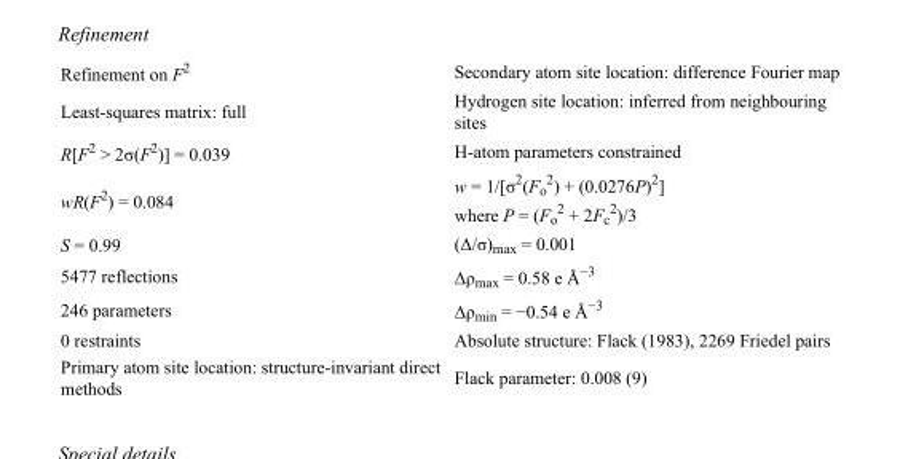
<table><tbody><tr><td>Refinement on F<sup>2</sup></td><td>Secondary atom site location: difference Fourier map</td></tr><tr><td>Least-squares matrix: full</td><td>Hydrogen site location: inferred from neighbouring sites</td></tr><tr><td>R[F<sup>2</sup> &gt; 2σ(F<sup>2</sup>)] = 0.039</td><td>H-atom parameters constrained</td></tr><tr><td>wR(F<sup>2</sup>) = 0.084</td><td>w = 1/[σ<sup>2</sup>(F<sub>o</sub> <sup>2</sup>) + (0.0276P)<sup>2</sup>] where P = (F<sub>o</sub> <sup>2</sup> + 2F<sub>c</sub> <sup>2</sup>)/3</td></tr><tr><td>S = 0.99</td><td>(Δ/σ)<sub>max</sub> = 0.001</td></tr><tr><td>5477 reflections</td><td>Δρ<sub>max</sub> = 0.58 e Å<sup>−3</sup></td></tr><tr><td>246 parameters</td><td>Δρ<sub>min</sub> = −0.54 e Å<sup>−3</sup></td></tr><tr><td>0 restraints</td><td>Absolute structure: Flack (1983), 2269 Friedel pairs</td></tr><tr><td>Primary atom site location: structure-invariant direct methods</td><td>Flack parameter: 0.008 (9)</td></tr></tbody></table>